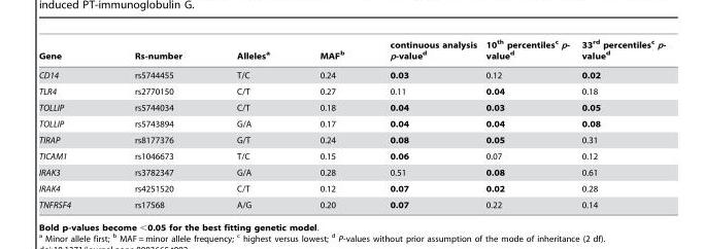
<table><thead><tr><td>Gene</td><td>Rs-number</td><td>Alleles<sup>a</sup></td><td>MAF<sup>b</sup></td><td>continuous analysis p-value<sup>d</sup></td><td>10<sup>th</sup> percentiles<sup>c</sup> p- value<sup>d</sup></td><td>33<sup>rd</sup> percentiles<sup>c</sup> p- value<sup>d</sup></td></tr></thead><tbody><tr><td>CD14</td><td>rs5744455</td><td>T/C</td><td>0.24</td><td>0.03</td><td>0.12</td><td>0.02</td></tr><tr><td>TLR4</td><td>rs2770150</td><td>C/T</td><td>0.27</td><td>0.11</td><td>0.04</td><td>0.18</td></tr><tr><td>TOLLIP</td><td>rs5744034</td><td>C/T</td><td>0.18</td><td>0.04</td><td>0.03</td><td>0.05</td></tr><tr><td>TOLLIP</td><td>rs5743894</td><td>G/A</td><td>0.17</td><td>0.04</td><td>0.04</td><td>0.08</td></tr><tr><td>TIRAP</td><td>rs8177376</td><td>G/T</td><td>0.24</td><td>0.08</td><td>0.05</td><td>0.31</td></tr><tr><td>TICAM1</td><td>rs1046673</td><td>T/C</td><td>0.15</td><td>0.06</td><td>0.07</td><td>0.12</td></tr><tr><td>IRAK3</td><td>rs3782347</td><td>G/A</td><td>0.28</td><td>0.51</td><td>0.08</td><td>0.61</td></tr><tr><td>IRAK4</td><td>rs4251520</td><td>C/T</td><td>0.12</td><td>0.07</td><td>0.02</td><td>0.28</td></tr><tr><td>TNFRSF4</td><td>rs17568</td><td>A/G</td><td>0.20</td><td>0.07</td><td>0.22</td><td>0.14</td></tr></tbody></table>